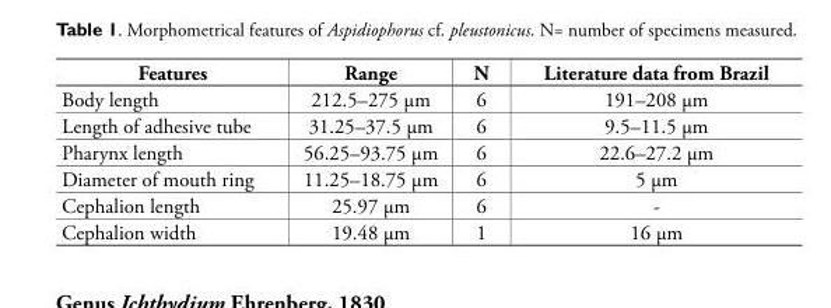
<table><thead><tr><td>Features</td><td>Range</td><td>N</td><td>Literature data from Brazil</td></tr></thead><tbody><tr><td>Body length</td><td>212.5–275 μm</td><td>6</td><td>191–208 μm</td></tr><tr><td>Length of adhesive tube</td><td>31.25–37.5 μm</td><td>6</td><td>9.5–11.5 μm</td></tr><tr><td>Pharynx length</td><td>56.25–93.75 μm</td><td>6</td><td>22.6–27.2 μm</td></tr><tr><td>Diameter of mouth ring</td><td>11.25–18.75 μm</td><td>6</td><td>5 μm</td></tr><tr><td>Cephalion length</td><td>25.97 μm</td><td>6</td><td>-</td></tr><tr><td>Cephalion width</td><td>19.48 μm</td><td>1</td><td>16 μm</td></tr></tbody></table>